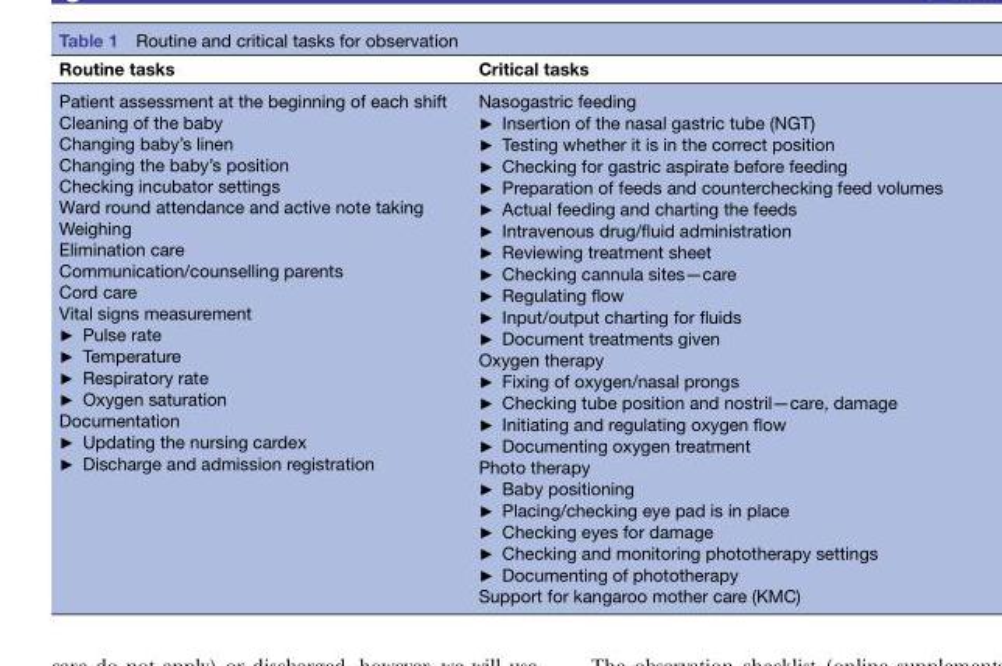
<table><thead><tr><td>Routine tasks</td><td>Critical tasks</td></tr></thead><tbody><tr><td>Patient assessment at the beginning of each shift Cleaning of the baby Changing baby’s linen Changing the baby’s position Checking incubator settings Ward round attendance and active note taking Weighing Elimination care Communication/counselling parents Cord care Vital signs measurement ► Pulse rate ► Temperature ► Respiratory rate ► Oxygen saturation Documentation ► Updating the nursing cardex ► Discharge and admission registration</td><td>Nasogastric feeding ► Insertion of the nasal gastric tube (NGT) ► Testing whether it is in the correct position ► Checking for gastric aspirate before feeding ► Preparation of feeds and counterchecking feed volumes ► Actual feeding and charting the feeds ► Intravenous drug/fluid administration ► Reviewing treatment sheet ► Checking cannula sites—care ► Regulating flow ► Input/output charting for fluids ► Document treatments given Oxygen therapy ► Fixing of oxygen/nasal prongs ► Checking tube position and nostril—care, damage ► Initiating and regulating oxygen flow ► Documenting oxygen treatment Photo therapy ► Baby positioning ► Placing/checking eye pad is in place ► Checking eyes for damage ► Checking and monitoring phototherapy settings ► Documenting of phototherapy Support for kangaroo mother care (KMC)</td></tr></tbody></table>